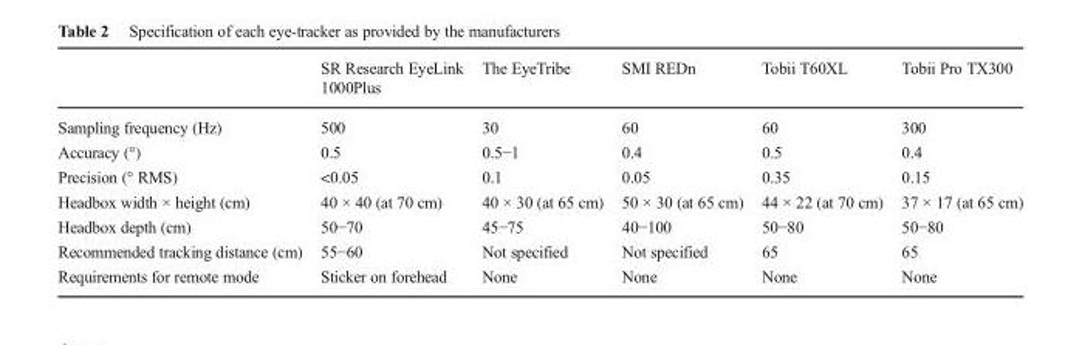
<table><thead><tr><td></td><td>SR Research EyeLink 1000Plus</td><td>The EyeTribe</td><td>SMI REDn</td><td>Tobii T60XL</td><td>Tobii Pro TX300</td></tr></thead><tbody><tr><td>Sampling frequency (Hz)</td><td>500</td><td>30</td><td>60</td><td>60</td><td>300</td></tr><tr><td>Accuracy (°)</td><td>0.5</td><td>0.5−1</td><td>0.4</td><td>0.5</td><td>0.4</td></tr><tr><td>Precision (° RMS)</td><td>&lt;0.05</td><td>0.1</td><td>0.05</td><td>0.35</td><td>0.15</td></tr><tr><td>Headbox width × height (cm)</td><td>40 × 40 (at 70 cm)</td><td>40 × 30 (at 65 cm)</td><td>50 × 30 (at 65 cm)</td><td>44 × 22 (at 70 cm)</td><td>37 × 17 (at 65 cm)</td></tr><tr><td>Headbox depth (cm)</td><td>50−70</td><td>45−75</td><td>40−100</td><td>50−80</td><td>50−80</td></tr><tr><td>Recommended tracking distance (cm)</td><td>55−60</td><td>Not specified</td><td>Not specified</td><td>65</td><td>65</td></tr><tr><td>Requirements for remote mode</td><td>Sticker on forehead</td><td>None</td><td>None</td><td>None</td><td>None</td></tr></tbody></table>